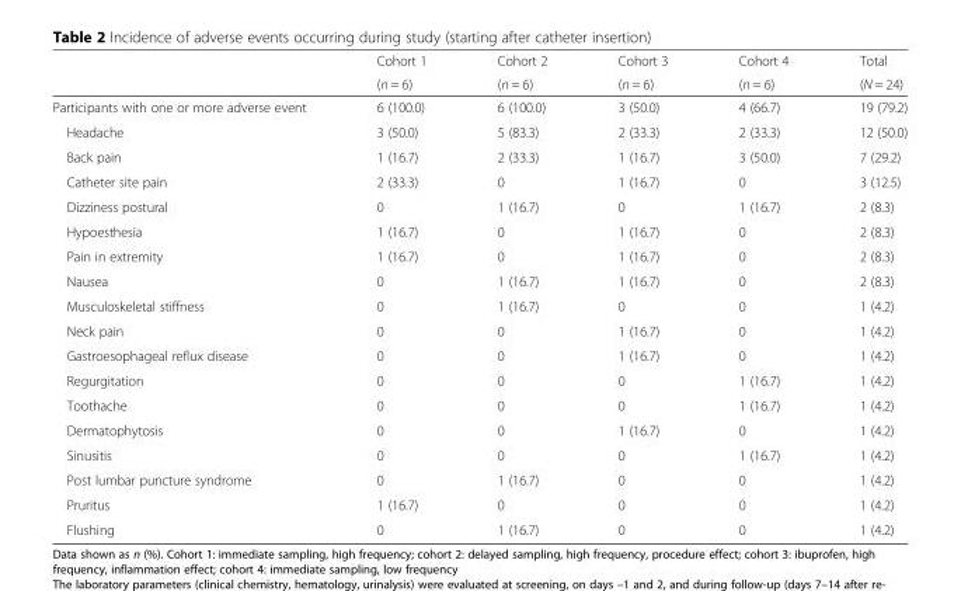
<table><thead><tr><td rowspan="2"></td><td rowspan="2">Cohort 1 (n = 6)</td><td rowspan="2">Cohort 2 (n = 6)</td><td rowspan="2">Cohort 3 (n = 6)</td><td rowspan="2">Cohort 4 (n = 6)</td><td rowspan="2">Total (N = 24)</td></tr><tr></tr></thead><tbody><tr><td>Participants with one or more adverse event</td><td>6 (100.0)</td><td>6 (100.0)</td><td>3 (50.0)</td><td>4 (66.7)</td><td>19 (79.2)</td></tr><tr><td>Headache</td><td>3 (50.0)</td><td>5 (83.3)</td><td>2 (33.3)</td><td>2 (33.3)</td><td>12 (50.0)</td></tr><tr><td>Back pain</td><td>1 (16.7)</td><td>2 (33.3)</td><td>1 (16.7)</td><td>3 (50.0)</td><td>7 (29.2)</td></tr><tr><td>Catheter site pain</td><td>2 (33.3)</td><td>0</td><td>1 (16.7)</td><td>0</td><td>3 (12.5)</td></tr><tr><td>Dizziness postural</td><td>0</td><td>1 (16.7)</td><td>0</td><td>1 (16.7)</td><td>2 (8.3)</td></tr><tr><td>Hypoesthesia</td><td>1 (16.7)</td><td>0</td><td>1 (16.7)</td><td>0</td><td>2 (8.3)</td></tr><tr><td>Pain in extremity</td><td>1 (16.7)</td><td>0</td><td>1 (16.7)</td><td>0</td><td>2 (8.3)</td></tr><tr><td>Nausea</td><td>0</td><td>1 (16.7)</td><td>1 (16.7)</td><td>0</td><td>2 (8.3)</td></tr><tr><td>Musculoskeletal stiffness</td><td>0</td><td>1 (16.7)</td><td>0</td><td>0</td><td>1 (4.2)</td></tr><tr><td>Neck pain</td><td>0</td><td>0</td><td>1 (16.7)</td><td>0</td><td>1 (4.2)</td></tr><tr><td>Gastroesophageal reflux disease</td><td>0</td><td>0</td><td>1 (16.7)</td><td>0</td><td>1 (4.2)</td></tr><tr><td>Regurgitation</td><td>0</td><td>0</td><td>0</td><td>1 (16.7)</td><td>1 (4.2)</td></tr><tr><td>Toothache</td><td>0</td><td>0</td><td>0</td><td>1 (16.7)</td><td>1 (4.2)</td></tr><tr><td>Dermatophytosis</td><td>0</td><td>0</td><td>1 (16.7)</td><td>0</td><td>1 (4.2)</td></tr><tr><td>Sinusitis</td><td>0</td><td>0</td><td>0</td><td>1 (16.7)</td><td>1 (4.2)</td></tr><tr><td>Post lumbar puncture syndrome</td><td>0</td><td>1 (16.7)</td><td>0</td><td>0</td><td>1 (4.2)</td></tr><tr><td>Pruritus</td><td>1 (16.7)</td><td>0</td><td>0</td><td>0</td><td>1 (4.2)</td></tr><tr><td>Flushing</td><td>0</td><td>1 (16.7)</td><td>0</td><td>0</td><td>1 (4.2)</td></tr></tbody></table>